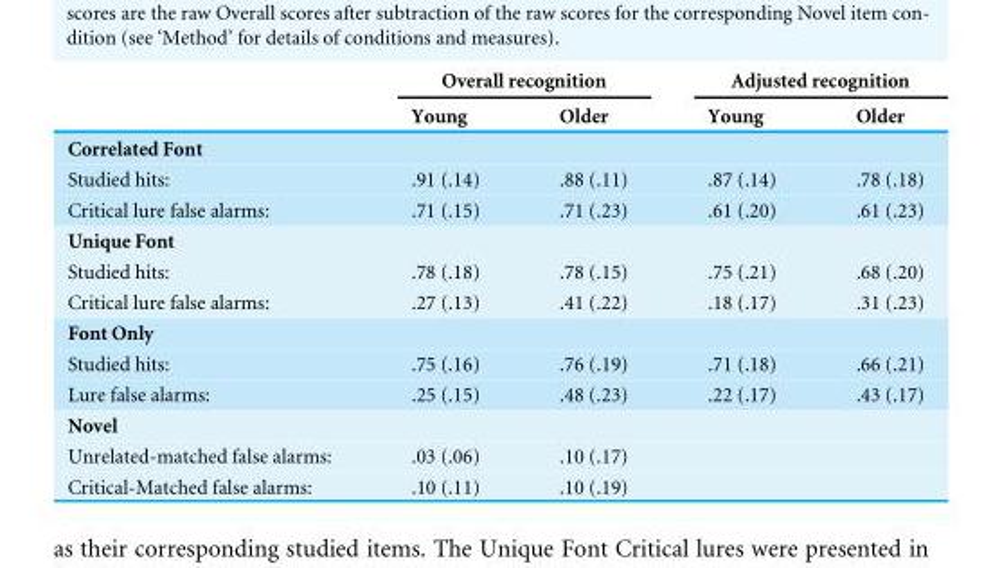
<table><thead><tr><td rowspan="2"></td><td colspan="2">Overall recognition</td><td colspan="2">Adjusted recognition</td></tr><tr><td>Young</td><td>Older</td><td>Young</td><td>Older</td></tr></thead><tbody><tr><td colspan="5">Correlated Font</td></tr><tr><td>Studied hits:</td><td>.91 (.14)</td><td>.88 (.11)</td><td>.87 (.14)</td><td>.78 (.18)</td></tr><tr><td>Critical lure false alarms:</td><td>.71 (.15)</td><td>.71 (.23)</td><td>.61 (.20)</td><td>.61 (.23)</td></tr><tr><td colspan="5">Unique Font</td></tr><tr><td>Studied hits:</td><td>.78 (.18)</td><td>.78 (.15)</td><td>.75 (.21)</td><td>.68 (.20)</td></tr><tr><td>Critical lure false alarms:</td><td>.27 (.13)</td><td>.41 (.22)</td><td>.18 (.17)</td><td>.31 (.23)</td></tr><tr><td colspan="5">Font Only</td></tr><tr><td>Studied hits:</td><td>.75 (.16)</td><td>.76 (.19)</td><td>.71 (.18)</td><td>.66 (.21)</td></tr><tr><td>Lure false alarms:</td><td>.25 (.15)</td><td>.48 (.23)</td><td>.22 (.17)</td><td>.43 (.17)</td></tr><tr><td colspan="5">Novel</td></tr><tr><td>Unrelated-matched false alarms:</td><td>.03 (.06)</td><td>.10 (.17)</td><td></td><td></td></tr><tr><td>Critical-Matched false alarms:</td><td>.10 (.11)</td><td>.10 (.19)</td><td></td><td></td></tr></tbody></table>